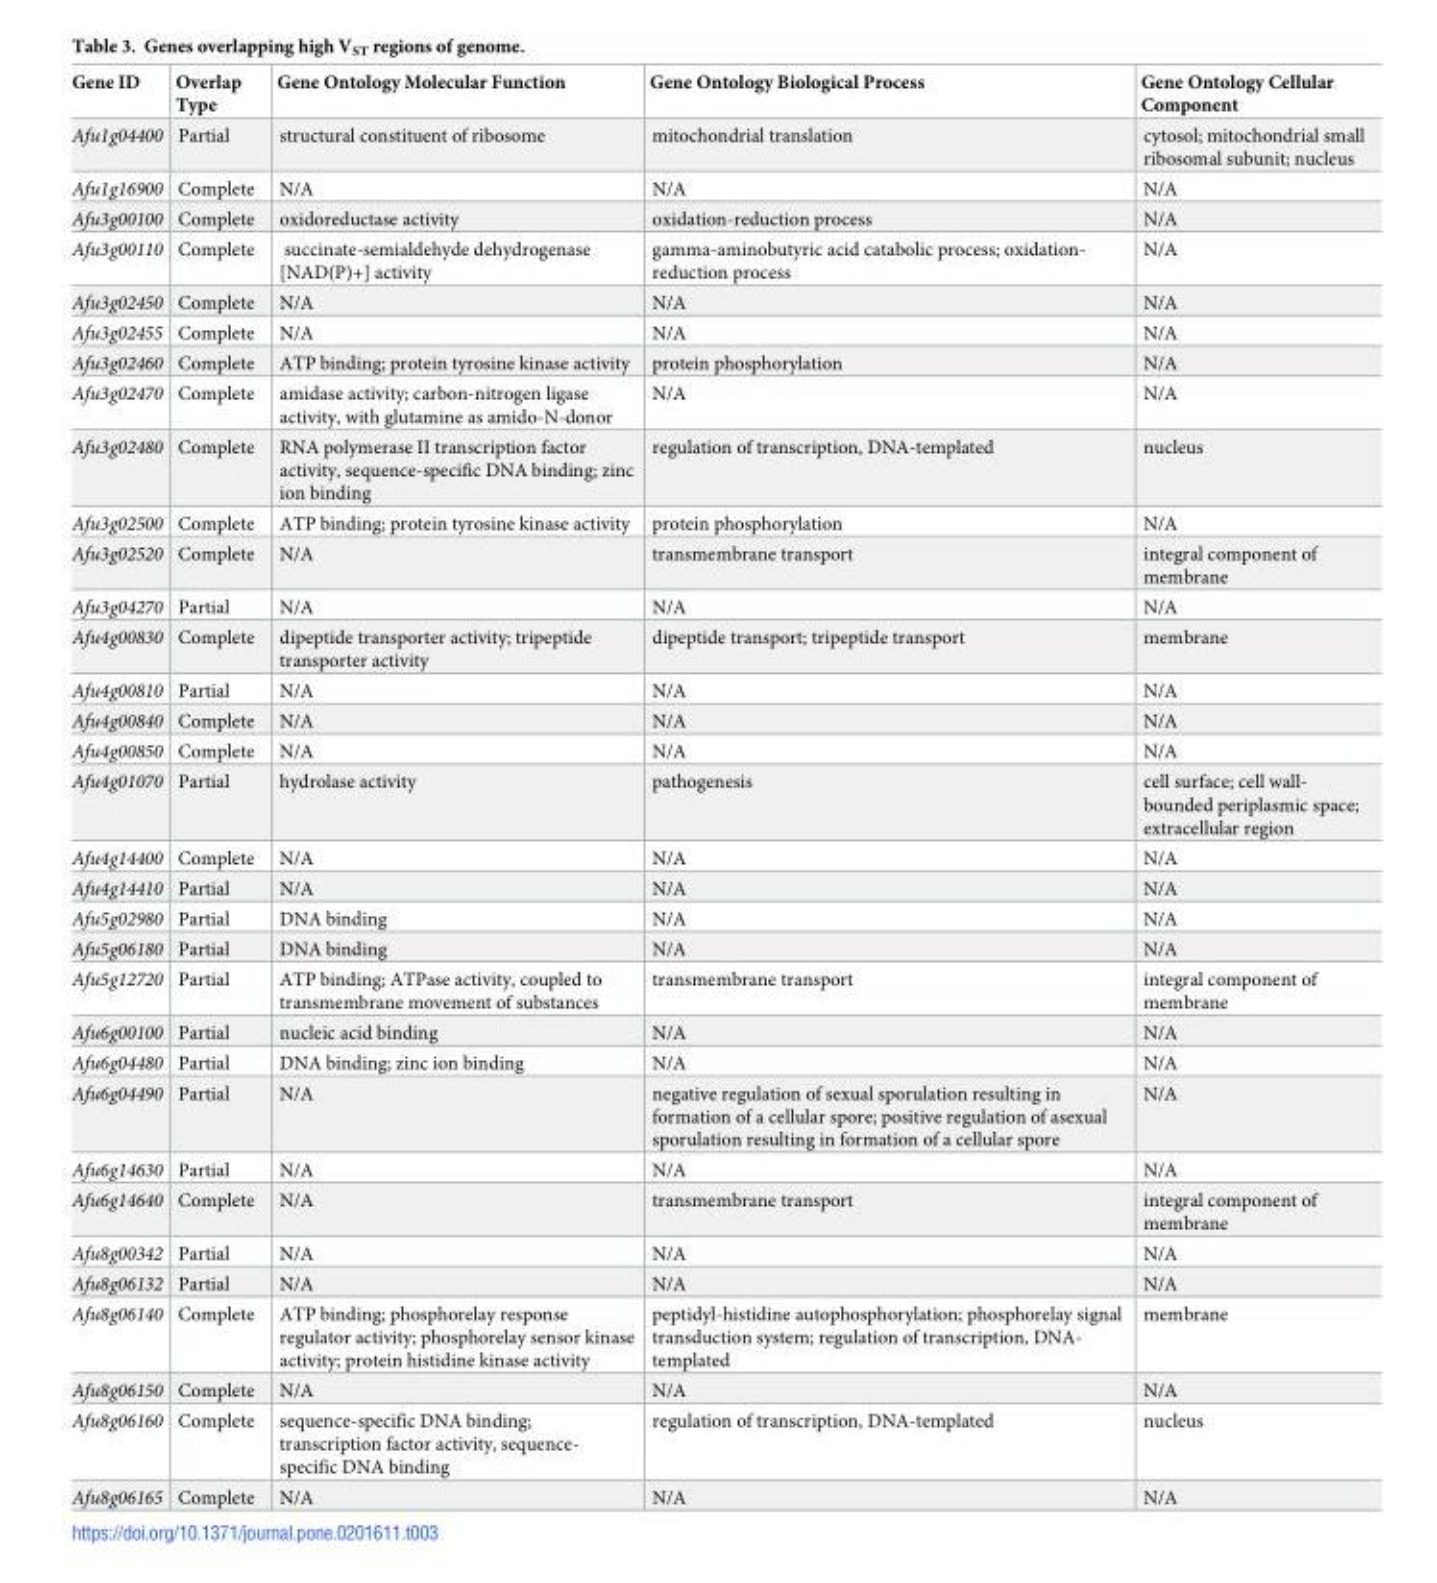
<table><thead><tr><td>Gene ID</td><td>Overlap Type</td><td>Gene Ontology Molecular Function</td><td>Gene Ontology Biological Process</td><td>Gene Ontology Cellular Component</td></tr></thead><tbody><tr><td>Afu1g04400</td><td>Partial</td><td>structural constituent of ribosome</td><td>mitochondrial translation</td><td>cytosol; mitochondrial small ribosomal subunit; nucleus</td></tr><tr><td>Afu1g16900</td><td>Complete</td><td>N/A</td><td>N/A</td><td>N/A</td></tr><tr><td>Afu3g00100</td><td>Complete</td><td>oxidoreductase activity</td><td>oxidation-reduction process</td><td>N/A</td></tr><tr><td>Afu3g00110</td><td>Complete</td><td>succinate-semialdehyde dehydrogenase [NAD(P)+] activity</td><td>gamma-aminobutyric acid catabolic process; oxidation- reduction process</td><td>N/A</td></tr><tr><td>Afu3g02450</td><td>Complete</td><td>N/A</td><td>N/A</td><td>N/A</td></tr><tr><td>Afu3g02455</td><td>Complete</td><td>N/A</td><td>N/A</td><td>N/A</td></tr><tr><td>Afu3g02460</td><td>Complete</td><td>ATP binding; protein tyrosine kinase activity</td><td>protein phosphorylation</td><td>N/A</td></tr><tr><td>Afu3g02470</td><td>Complete</td><td>amidase activity; carbon-nitrogen ligase activity, with glutamine as amido-N-donor</td><td>N/A</td><td>N/A</td></tr><tr><td>Afu3g02480</td><td>Complete</td><td>RNA polymerase II transcription factor activity, sequence-specific DNA binding; zinc ion binding</td><td>regulation of transcription, DNA-templated</td><td>nucleus</td></tr><tr><td>Afu3g02500</td><td>Complete</td><td>ATP binding; protein tyrosine kinase activity</td><td>protein phosphorylation</td><td>N/A</td></tr><tr><td>Afu3g02520</td><td>Complete</td><td>N/A</td><td>transmembrane transport</td><td>integral component of membrane</td></tr><tr><td>Afu3g04270</td><td>Partial</td><td>N/A</td><td>N/A</td><td>N/A</td></tr><tr><td>Afu4g00830</td><td>Complete</td><td>dipeptide transporter activity; tripeptide transporter activity</td><td>dipeptide transport; tripeptide transport</td><td>membrane</td></tr><tr><td>Afu4g00810</td><td>Partial</td><td>N/A</td><td>N/A</td><td>N/A</td></tr><tr><td>Afu4g00840</td><td>Complete</td><td>N/A</td><td>N/A</td><td>N/A</td></tr><tr><td>Afu4g00850</td><td>Complete</td><td>N/A</td><td>N/A</td><td>N/A</td></tr><tr><td>Afu4g01070</td><td>Partial</td><td>hydrolase activity</td><td>pathogenesis</td><td>cell surface; cell wall- bounded periplasmic space; extracellular region</td></tr><tr><td>Afu4g14400</td><td>Complete</td><td>N/A</td><td>N/A</td><td>N/A</td></tr><tr><td>Afu4g14410</td><td>Partial</td><td>N/A</td><td>N/A</td><td>N/A</td></tr><tr><td>Afu5g02980</td><td>Partial</td><td>DNA binding</td><td>N/A</td><td>N/A</td></tr><tr><td>Afu5g06180</td><td>Partial</td><td>DNA binding</td><td>N/A</td><td>N/A</td></tr><tr><td>Afu5g12720</td><td>Partial</td><td>ATP binding; ATPase activity, coupled to transmembrane movement of substances</td><td>transmembrane transport</td><td>integral component of membrane</td></tr><tr><td>Afu6g00100</td><td>Partial</td><td>nucleic acid binding</td><td>N/A</td><td>N/A</td></tr><tr><td>Afu6g04480</td><td>Partial</td><td>DNA binding; zinc ion binding</td><td>N/A</td><td>N/A</td></tr><tr><td>Afu6g04490</td><td>Partial</td><td>N/A</td><td>negative regulation of sexual sporulation resulting in formation of a cellular spore; positive regulation of asexual sporulation resulting in formation of a cellular spore</td><td>N/A</td></tr><tr><td>Afu6g14630</td><td>Partial</td><td>N/A</td><td>N/A</td><td>N/A</td></tr><tr><td>Afu6g14640</td><td>Complete</td><td>N/A</td><td>transmembrane transport</td><td>integral component of membrane</td></tr><tr><td>Afu8g00342</td><td>Partial</td><td>N/A</td><td>N/A</td><td>N/A</td></tr><tr><td>Afu8g06132</td><td>Partial</td><td>N/A</td><td>N/A</td><td>N/A</td></tr><tr><td>Afu8g06140</td><td>Complete</td><td>ATP binding; phosphorelay response regulator activity; phosphorelay sensor kinase activity; protein histidine kinase activity</td><td>peptidyl-histidine autophosphorylation; phosphorelay signal transduction system; regulation of transcription, DNA- templated</td><td>membrane</td></tr><tr><td>Afu8g06150</td><td>Complete</td><td>N/A</td><td>N/A</td><td>N/A</td></tr><tr><td>Afu8g06160</td><td>Complete</td><td>sequence-specific DNA binding; transcription factor activity, sequence- specific DNA binding</td><td>regulation of transcription, DNA-templated</td><td>nucleus</td></tr><tr><td>Afu8g06165</td><td>Complete</td><td>N/A</td><td>N/A</td><td>N/A</td></tr></tbody></table>